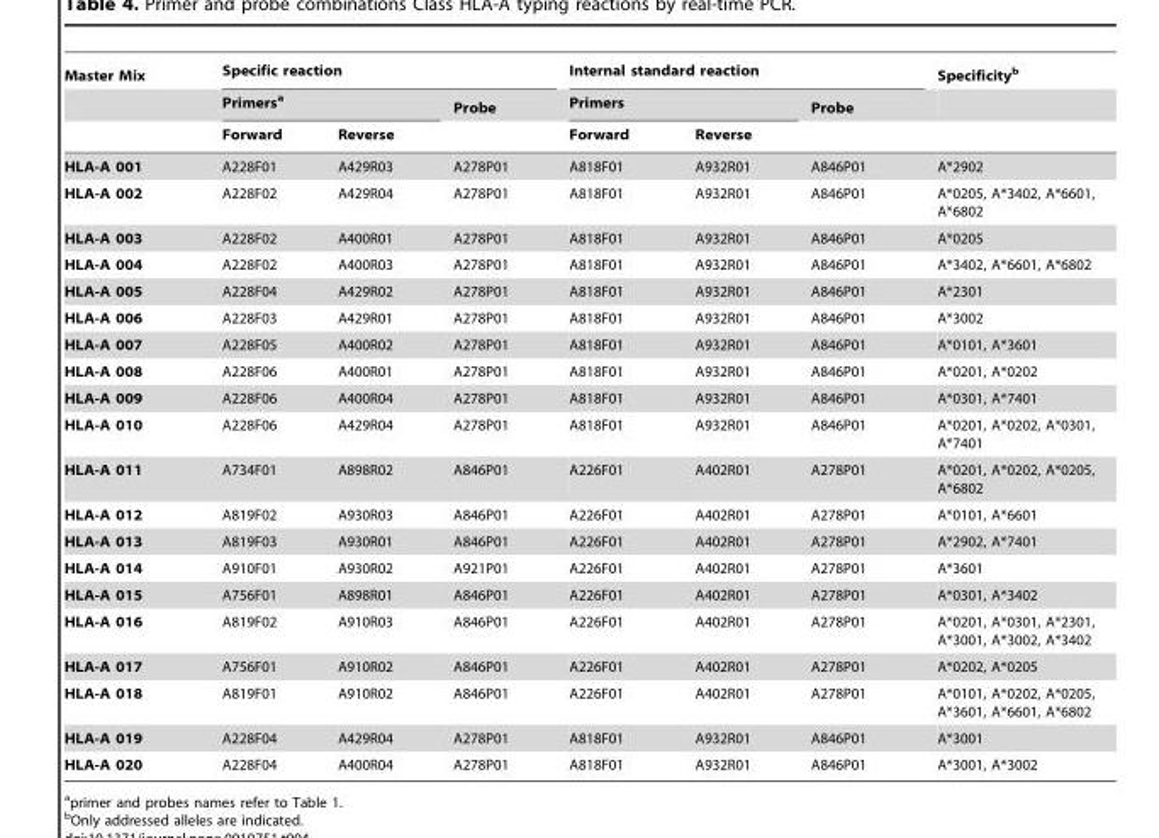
<table><thead><tr><td rowspan="3">Master Mix</td><td colspan="3">Specific reaction</td><td colspan="3">Internal standard reaction</td><td rowspan="3">Specificity<sup>b</sup></td></tr><tr><td colspan="2">Primers<sup>a</sup></td><td rowspan="2">Probe</td><td colspan="2">Primers</td><td rowspan="2">Probe</td></tr><tr><td>Forward</td><td>Reverse</td><td>Forward</td><td>Reverse</td></tr></thead><tbody><tr><td>HLA-A 001</td><td>A228F01</td><td>A429R03</td><td>A278P01</td><td>A818F01</td><td>A932R01</td><td>A846P01</td><td>A*2902</td></tr><tr><td>HLA-A 002</td><td>A228F02</td><td>A429R04</td><td>A278P01</td><td>A818F01</td><td>A932R01</td><td>A846P01</td><td>A*0205, A*3402, A*6601, A*6802</td></tr><tr><td>HLA-A 003</td><td>A228F02</td><td>A400R01</td><td>A278P01</td><td>A818F01</td><td>A932R01</td><td>A846P01</td><td>A*0205</td></tr><tr><td>HLA-A 004</td><td>A228F02</td><td>A400R03</td><td>A278P01</td><td>A818F01</td><td>A932R01</td><td>A846P01</td><td>A*3402, A*6601, A*6802</td></tr><tr><td>HLA-A 005</td><td>A228F04</td><td>A429R02</td><td>A278P01</td><td>A818F01</td><td>A932R01</td><td>A846P01</td><td>A*2301</td></tr><tr><td>HLA-A 006</td><td>A228F03</td><td>A429R01</td><td>A278P01</td><td>A818F01</td><td>A932R01</td><td>A846P01</td><td>A*3002</td></tr><tr><td>HLA-A 007</td><td>A228F05</td><td>A400R02</td><td>A278P01</td><td>A818F01</td><td>A932R01</td><td>A846P01</td><td>A*0101, A*3601</td></tr><tr><td>HLA-A 008</td><td>A228F06</td><td>A400R01</td><td>A278P01</td><td>A818F01</td><td>A932R01</td><td>A846P01</td><td>A*0201, A*0202</td></tr><tr><td>HLA-A 009</td><td>A228F06</td><td>A400R04</td><td>A278P01</td><td>A818F01</td><td>A932R01</td><td>A846P01</td><td>A*0301, A*7401</td></tr><tr><td>HLA-A 010</td><td>A228F06</td><td>A429R04</td><td>A278P01</td><td>A818F01</td><td>A932R01</td><td>A846P01</td><td>A*0201, A*0202, A*0301, A*7401</td></tr><tr><td>HLA-A 011</td><td>A734F01</td><td>A898R02</td><td>A846P01</td><td>A226F01</td><td>A402R01</td><td>A278P01</td><td>A*0201, A*0202, A*0205, A*6802</td></tr><tr><td>HLA-A 012</td><td>A819F02</td><td>A930R03</td><td>A846P01</td><td>A226F01</td><td>A402R01</td><td>A278P01</td><td>A*0101, A*6601</td></tr><tr><td>HLA-A 013</td><td>A819F03</td><td>A930R01</td><td>A846P01</td><td>A226F01</td><td>A402R01</td><td>A278P01</td><td>A*2902, A*7401</td></tr><tr><td>HLA-A 014</td><td>A910F01</td><td>A930R02</td><td>A921P01</td><td>A226F01</td><td>A402R01</td><td>A278P01</td><td>A*3601</td></tr><tr><td>HLA-A 015</td><td>A756F01</td><td>A898R01</td><td>A846P01</td><td>A226F01</td><td>A402R01</td><td>A278P01</td><td>A*0301, A*3402</td></tr><tr><td>HLA-A 016</td><td>A819F02</td><td>A910R03</td><td>A846P01</td><td>A226F01</td><td>A402R01</td><td>A278P01</td><td>A*0201, A*0301, A*2301, A*3001, A*3002, A*3402</td></tr><tr><td>HLA-A 017</td><td>A756F01</td><td>A910R02</td><td>A846P01</td><td>A226F01</td><td>A402R01</td><td>A278P01</td><td>A*0202, A*0205</td></tr><tr><td>HLA-A 018</td><td>A819F01</td><td>A910R02</td><td>A846P01</td><td>A226F01</td><td>A402R01</td><td>A278P01</td><td>A*0101, A*0202, A*0205, A*3601, A*6601, A*6802</td></tr><tr><td>HLA-A 019</td><td>A228F04</td><td>A429R04</td><td>A278P01</td><td>A818F01</td><td>A932R01</td><td>A846P01</td><td>A*3001</td></tr><tr><td>HLA-A 020</td><td>A228F04</td><td>A400R04</td><td>A278P01</td><td>A818F01</td><td>A932R01</td><td>A846P01</td><td>A*3001, A*3002</td></tr></tbody></table>